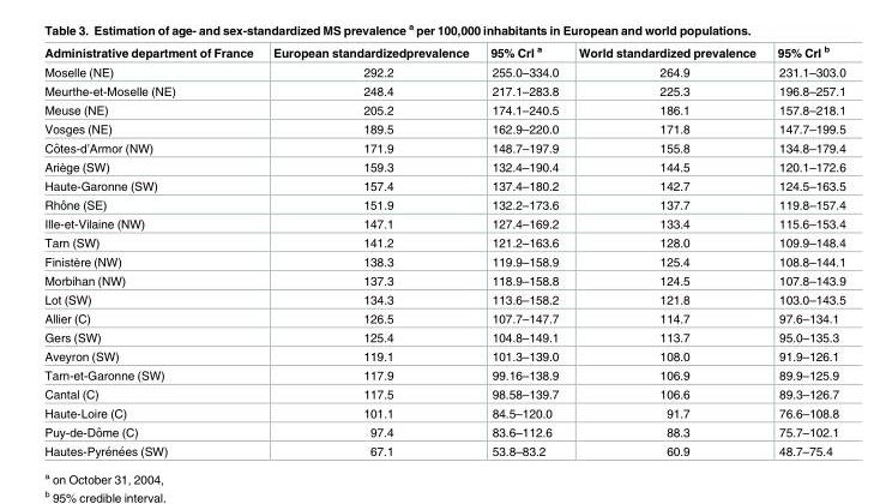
<table><thead><tr><td>Administrative department of France</td><td>European standardizedprevalence</td><td>95% CrI <sup>a</sup></td><td>World standardized prevalence</td><td>95% CrI <sup>b</sup></td></tr></thead><tbody><tr><td>Moselle (NE)</td><td>292.2</td><td>255.0–334.0</td><td>264.9</td><td>231.1–303.0</td></tr><tr><td>Meurthe-et-Moselle (NE)</td><td>248.4</td><td>217.1–283.8</td><td>225.3</td><td>196.8–257.1</td></tr><tr><td>Meuse (NE)</td><td>205.2</td><td>174.1–240.5</td><td>186.1</td><td>157.8–218.1</td></tr><tr><td>Vosges (NE)</td><td>189.5</td><td>162.9–220.0</td><td>171.8</td><td>147.7–199.5</td></tr><tr><td>Coˆtes-d’Armor (NW)</td><td>171.9</td><td>148.7–197.9</td><td>155.8</td><td>134.8–179.4</td></tr><tr><td>Ariège (SW)</td><td>159.3</td><td>132.4–190.4</td><td>144.5</td><td>120.1–172.6</td></tr><tr><td>Haute-Garonne (SW)</td><td>157.4</td><td>137.4–180.2</td><td>142.7</td><td>124.5–163.5</td></tr><tr><td>Rhoˆne (SE)</td><td>151.9</td><td>132.2–173.6</td><td>137.7</td><td>119.8–157.4</td></tr><tr><td>Ille-et-Vilaine (NW)</td><td>147.1</td><td>127.4–169.2</td><td>133.4</td><td>115.6–153.4</td></tr><tr><td>Tarn (SW)</td><td>141.2</td><td>121.2–163.6</td><td>128.0</td><td>109.9–148.4</td></tr><tr><td>Finistère (NW)</td><td>138.3</td><td>119.9–158.9</td><td>125.4</td><td>108.8–144.1</td></tr><tr><td>Morbihan (NW)</td><td>137.3</td><td>118.9–158.8</td><td>124.5</td><td>107.8–143.9</td></tr><tr><td>Lot (SW)</td><td>134.3</td><td>113.6–158.2</td><td>121.8</td><td>103.0–143.5</td></tr><tr><td>Allier (C)</td><td>126.5</td><td>107.7–147.7</td><td>114.7</td><td>97.6–134.1</td></tr><tr><td>Gers (SW)</td><td>125.4</td><td>104.8–149.1</td><td>113.7</td><td>95.0–135.3</td></tr><tr><td>Aveyron (SW)</td><td>119.1</td><td>101.3–139.0</td><td>108.0</td><td>91.9–126.1</td></tr><tr><td>Tarn-et-Garonne (SW)</td><td>117.9</td><td>99.16–138.9</td><td>106.9</td><td>89.9–125.9</td></tr><tr><td>Cantal (C)</td><td>117.5</td><td>98.58–139.7</td><td>106.6</td><td>89.3–126.7</td></tr><tr><td>Haute-Loire (C)</td><td>101.1</td><td>84.5–120.0</td><td>91.7</td><td>76.6–108.8</td></tr><tr><td>Puy-de-Doˆme (C)</td><td>97.4</td><td>83.6–112.6</td><td>88.3</td><td>75.7–102.1</td></tr><tr><td>Hautes-Pyre´ne´es (SW)</td><td>67.1</td><td>53.8–83.2</td><td>60.9</td><td>48.7–75.4</td></tr></tbody></table>